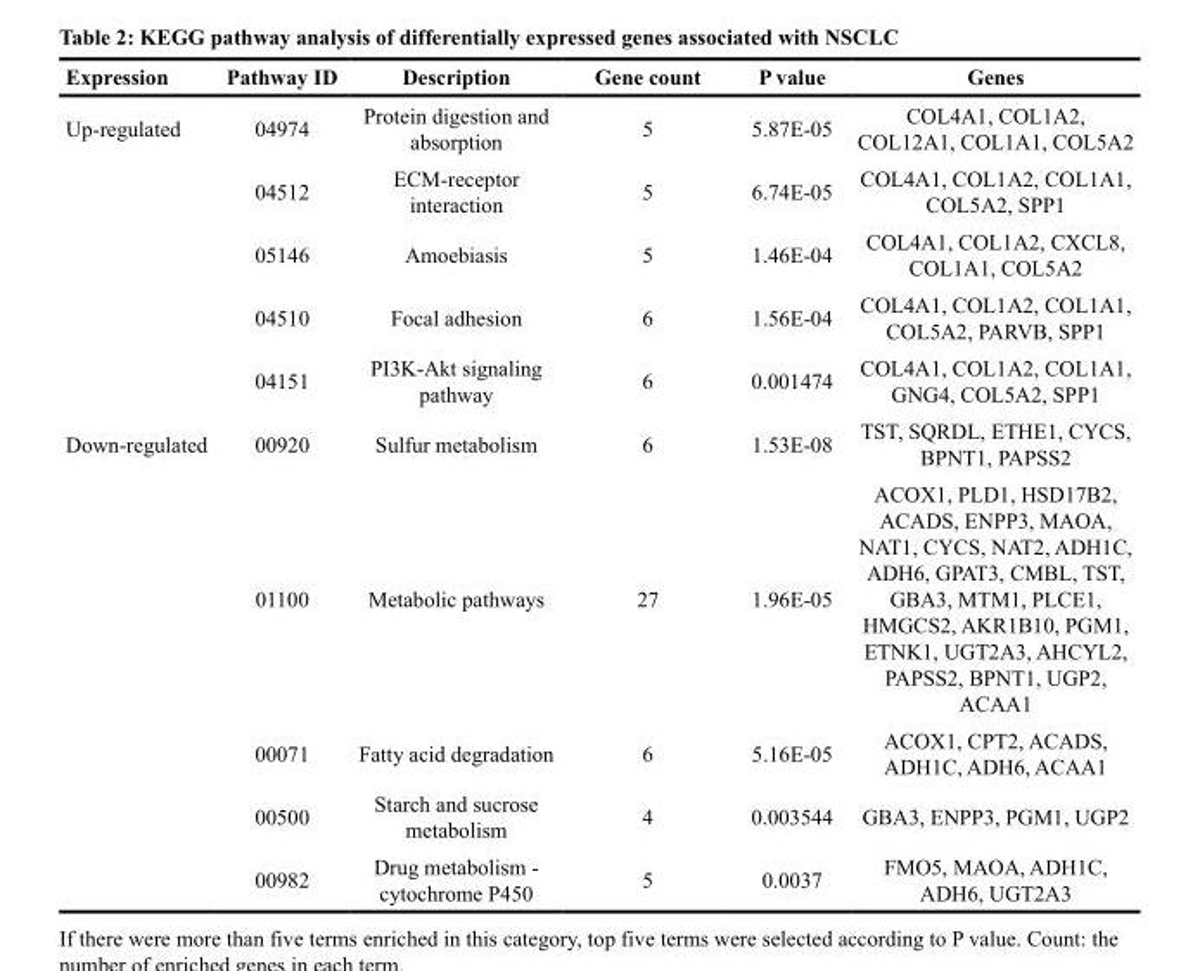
<table><thead><tr><td>Expression</td><td>Pathway ID</td><td>Description</td><td>Gene count</td><td>P value</td><td>Genes</td></tr></thead><tbody><tr><td rowspan="5">Up-regulated</td><td>04974</td><td>Protein digestion and absorption</td><td>5</td><td>5.87E-05</td><td>COL4A1, COL1A2, COL12A1, COL1A1, COL5A2</td></tr><tr><td>04512</td><td>ECM-receptor interaction</td><td>5</td><td>6.74E-05</td><td>COL4A1, COL1A2, COL1A1, COL5A2, SPP1</td></tr><tr><td>05146</td><td>Amoebiasis</td><td>5</td><td>1.46E-04</td><td>COL4A1, COL1A2, CXCL8, COL1A1, COL5A2</td></tr><tr><td>04510</td><td>Focal adhesion</td><td>6</td><td>1.56E-04</td><td>COL4A1, COL1A2, COL1A1, COL5A2, PARVB, SPP1</td></tr><tr><td>04151</td><td>PI3K-Akt signaling pathway</td><td>6</td><td>0.001474</td><td>COL4A1, COL1A2, COL1A1, GNG4, COL5A2, SPP1</td></tr><tr><td rowspan="5">Down-regulated</td><td>00920</td><td>Sulfur metabolism</td><td>6</td><td>1.53E-08</td><td>TST, SQRDL, ETHE1, CYCS, BPNT1, PAPSS2</td></tr><tr><td>01100</td><td>Metabolic pathways</td><td>27</td><td>1.96E-05</td><td>ACOX1, PLD1, HSD17B2, ACADS, ENPP3, MAOA, NAT1, CYCS, NAT2, ADH1C, ADH6, GPAT3, CMBL, TST, GBA3, MTM1, PLCE1, HMGCS2, AKR1B10, PGM1, ETNK1, UGT2A3, AHCYL2, PAPSS2, BPNT1, UGP2, ACAA1</td></tr><tr><td>00071</td><td>Fatty acid degradation</td><td>6</td><td>5.16E-05</td><td>ACOX1, CPT2, ACADS, ADH1C, ADH6, ACAA1</td></tr><tr><td>00500</td><td>Starch and sucrose metabolism</td><td>4</td><td>0.003544</td><td>GBA3, ENPP3, PGM1, UGP2</td></tr><tr><td>00982</td><td>Drug metabolism - cytochrome P450</td><td>5</td><td>0.0037</td><td>FMO5, MAOA, ADH1C, ADH6, UGT2A3</td></tr></tbody></table>